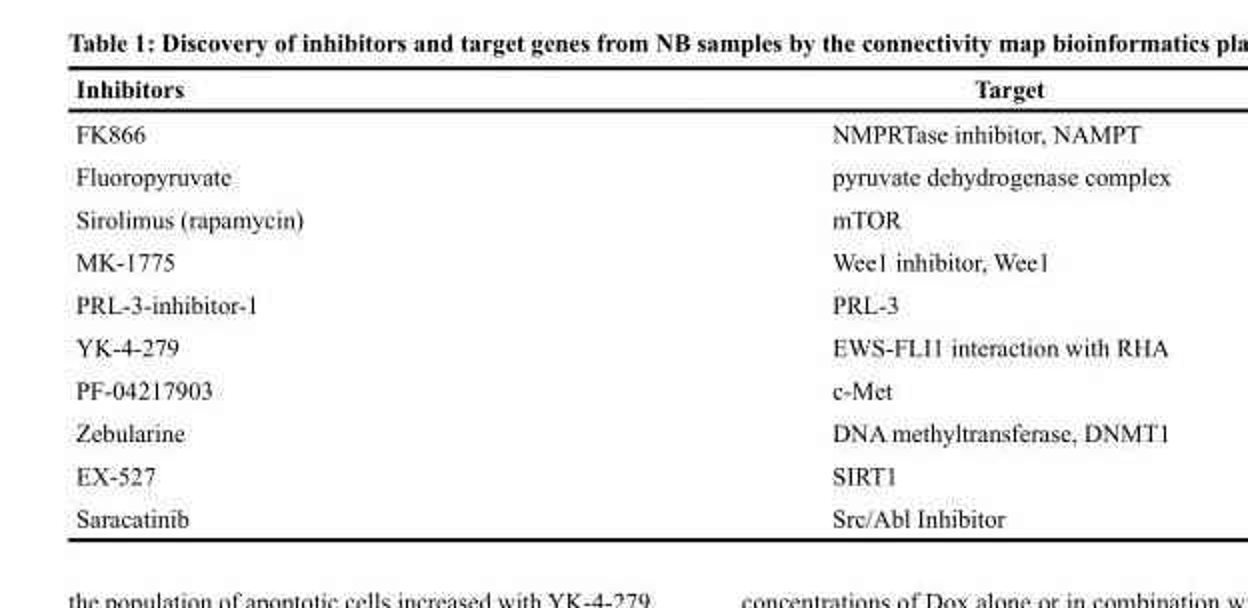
<table><thead><tr><td>Inhibitors</td><td>Target</td></tr></thead><tbody><tr><td>FK866</td><td>NMPRTase inhibitor, NAMPT</td></tr><tr><td>Fluoropyruvate</td><td>pyruvate dehydrogenase complex</td></tr><tr><td>Sirolimus (rapamycin)</td><td>mTOR</td></tr><tr><td>MK-1775</td><td>Wee1 inhibitor, Wee1</td></tr><tr><td>PRL-3-inhibitor-1</td><td>PRL-3</td></tr><tr><td>YK-4-279</td><td>EWS-FLI1 interaction with RHA</td></tr><tr><td>PF-04217903</td><td>c-Met</td></tr><tr><td>Zebularine</td><td>DNA methyltransferase, DNMT1</td></tr><tr><td>EX-527</td><td>SIRT1</td></tr><tr><td>Saracatinib</td><td>Src/Abl Inhibitor</td></tr></tbody></table>